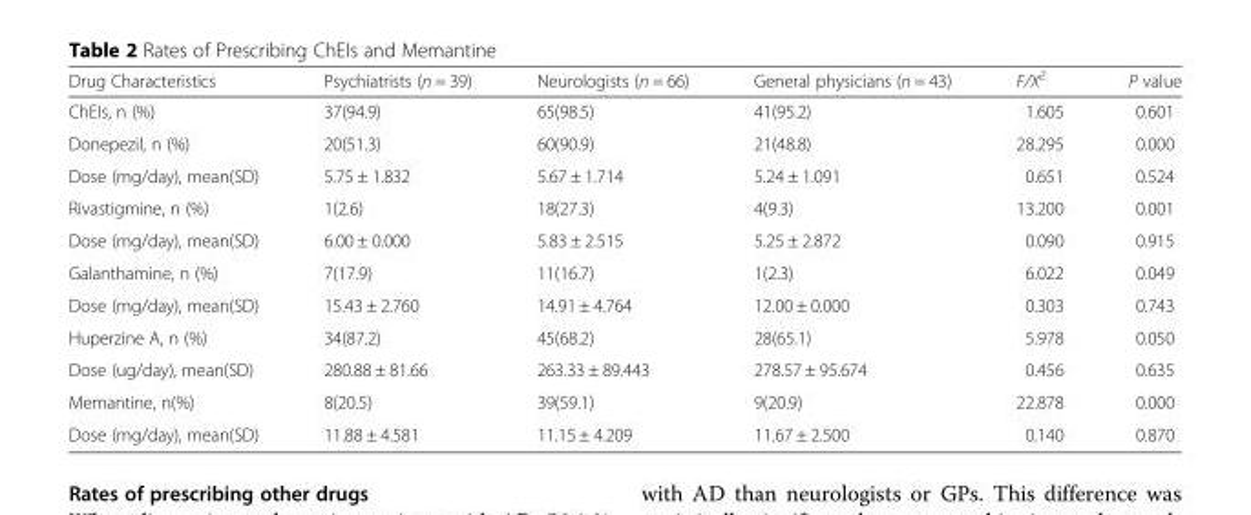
<table><thead><tr><td>Drug Characteristics</td><td>Psychiatrists (n = 39)</td><td>Neurologists (n = 66)</td><td>General physicians (n = 43)</td><td>F/X<sup>2</sup></td><td>P value</td></tr></thead><tbody><tr><td>ChEIs, n (%)</td><td>37(94.9)</td><td>65(98.5)</td><td>41(95.2)</td><td>1.605</td><td>0.601</td></tr><tr><td>Donepezil, n (%)</td><td>20(51.3)</td><td>60(90.9)</td><td>21(48.8)</td><td>28.295</td><td>0.000</td></tr><tr><td>Dose (mg/day), mean(SD)</td><td>5.75 ± 1.832</td><td>5.67 ± 1.714</td><td>5.24 ± 1.091</td><td>0.651</td><td>0.524</td></tr><tr><td>Rivastigmine, n (%)</td><td>1(2.6)</td><td>18(27.3)</td><td>4(9.3)</td><td>13.200</td><td>0.001</td></tr><tr><td>Dose (mg/day), mean(SD)</td><td>6.00 ± 0.000</td><td>5.83 ± 2.515</td><td>5.25 ± 2.872</td><td>0.090</td><td>0.915</td></tr><tr><td>Galanthamine, n (%)</td><td>7(17.9)</td><td>11(16.7)</td><td>1(2.3)</td><td>6.022</td><td>0.049</td></tr><tr><td>Dose (mg/day), mean(SD)</td><td>15.43 ± 2.760</td><td>14.91 ± 4.764</td><td>12.00 ± 0.000</td><td>0.303</td><td>0.743</td></tr><tr><td>Huperzine A, n (%)</td><td>34(87.2)</td><td>45(68.2)</td><td>28(65.1)</td><td>5.978</td><td>0.050</td></tr><tr><td>Dose (ug/day), mean(SD)</td><td>280.88 ± 81.66</td><td>263.33 ± 89.443</td><td>278.57 ± 95.674</td><td>0.456</td><td>0.635</td></tr><tr><td>Memantine, n(%)</td><td>8(20.5)</td><td>39(59.1)</td><td>9(20.9)</td><td>22.878</td><td>0.000</td></tr><tr><td>Dose (mg/day), mean(SD)</td><td>11.88 ± 4.581</td><td>11.15 ± 4.209</td><td>11.67 ± 2.500</td><td>0.140</td><td>0.870</td></tr></tbody></table>